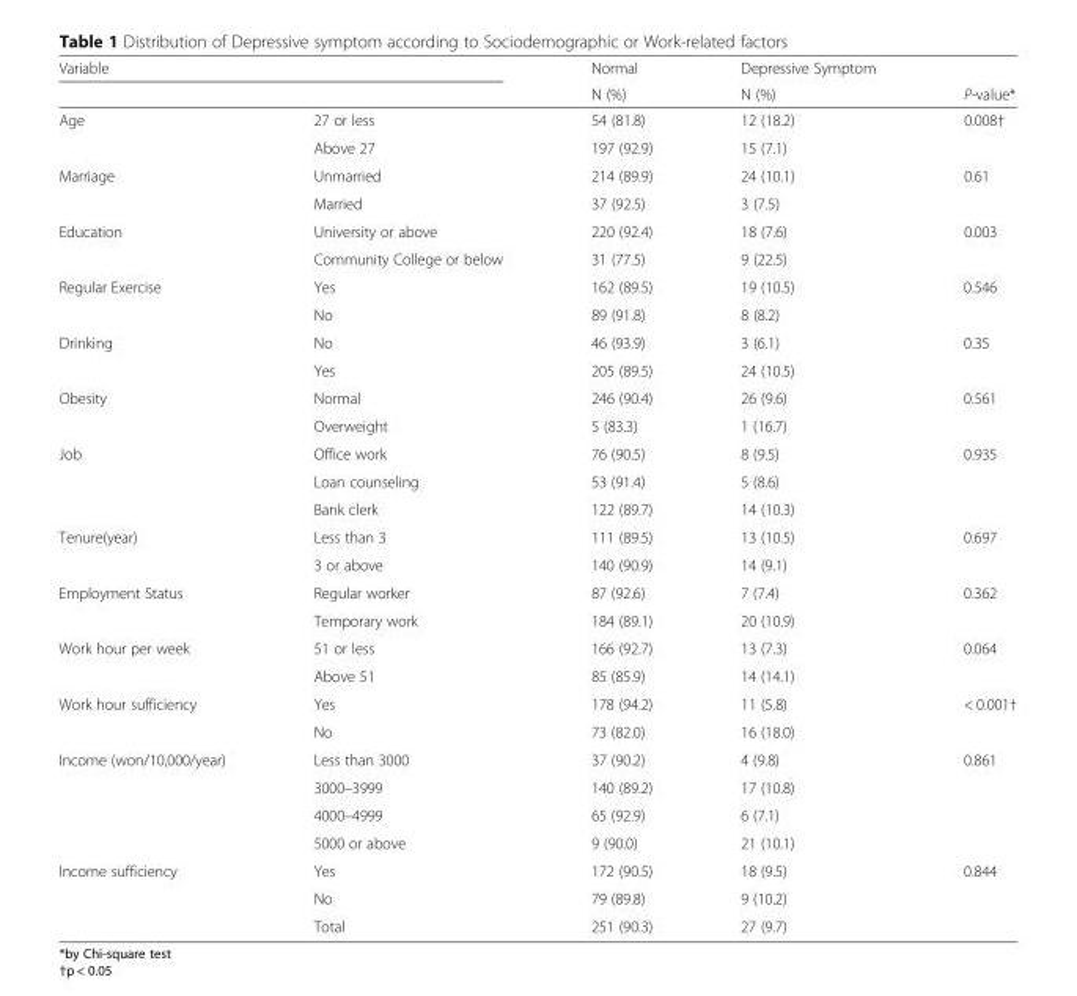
<table><thead><tr><td colspan="2">Variable</td><td rowspan="2">Normal N (%)</td><td rowspan="2">Depressive Symptom N (%)</td><td rowspan="2">P-value*</td></tr><tr><td></td><td></td></tr></thead><tbody><tr><td rowspan="2">Age</td><td>27 or less</td><td>54 (81.8)</td><td>12 (18.2)</td><td>0.008†</td></tr><tr><td>Above 27</td><td>197 (92.9)</td><td>15 (7.1)</td><td></td></tr><tr><td rowspan="2">Marriage</td><td>Unmarried</td><td>214 (89.9)</td><td>24 (10.1)</td><td>0.61</td></tr><tr><td>Married</td><td>37 (92.5)</td><td>3 (7.5)</td><td></td></tr><tr><td rowspan="2">Education</td><td>University or above</td><td>220 (92.4)</td><td>18 (7.6)</td><td>0.003</td></tr><tr><td>Community College or below</td><td>31 (77.5)</td><td>9 (22.5)</td><td></td></tr><tr><td rowspan="2">Regular Exercise</td><td>Yes</td><td>162 (89.5)</td><td>19 (10.5)</td><td>0.546</td></tr><tr><td>No</td><td>89 (91.8)</td><td>8 (8.2)</td><td></td></tr><tr><td rowspan="2">Drinking</td><td>No</td><td>46 (93.9)</td><td>3 (6.1)</td><td>0.35</td></tr><tr><td>Yes</td><td>205 (89.5)</td><td>24 (10.5)</td><td></td></tr><tr><td rowspan="2">Obesity</td><td>Normal</td><td>246 (90.4)</td><td>26 (9.6)</td><td>0.561</td></tr><tr><td>Overweight</td><td>5 (83.3)</td><td>1 (16.7)</td><td></td></tr><tr><td rowspan="3">Job</td><td>Office work</td><td>76 (90.5)</td><td>8 (9.5)</td><td>0.935</td></tr><tr><td>Loan counseling</td><td>53 (91.4)</td><td>5 (8.6)</td><td></td></tr><tr><td>Bank clerk</td><td>122 (89.7)</td><td>14 (10.3)</td><td></td></tr><tr><td rowspan="2">Tenure(year)</td><td>Less than 3</td><td>111 (89.5)</td><td>13 (10.5)</td><td>0.697</td></tr><tr><td>3 or above</td><td>140 (90.9)</td><td>14 (9.1)</td><td></td></tr><tr><td rowspan="2">Employment Status</td><td>Regular worker</td><td>87 (92.6)</td><td>7 (7.4)</td><td>0.362</td></tr><tr><td>Temporary work</td><td>184 (89.1)</td><td>20 (10.9)</td><td></td></tr><tr><td rowspan="2">Work hour per week</td><td>51 or less</td><td>166 (92.7)</td><td>13 (7.3)</td><td>0.064</td></tr><tr><td>Above 51</td><td>85 (85.9)</td><td>14 (14.1)</td><td></td></tr><tr><td rowspan="2">Work hour sufficiency</td><td>Yes</td><td>178 (94.2)</td><td>11 (5.8)</td><td>&lt; 0.001†</td></tr><tr><td>No</td><td>73 (82.0)</td><td>16 (18.0)</td><td></td></tr><tr><td rowspan="4">Income (won/10,000/year)</td><td>Less than 3000</td><td>37 (90.2)</td><td>4 (9.8)</td><td>0.861</td></tr><tr><td>3000–3999</td><td>140 (89.2)</td><td>17 (10.8)</td><td></td></tr><tr><td>4000–4999</td><td>65 (92.9)</td><td>6 (7.1)</td><td></td></tr><tr><td>5000 or above</td><td>9 (90.0)</td><td>21 (10.1)</td><td></td></tr><tr><td rowspan="3">Income sufficiency</td><td>Yes</td><td>172 (90.5)</td><td>18 (9.5)</td><td>0.844</td></tr><tr><td>No</td><td>79 (89.8)</td><td>9 (10.2)</td><td></td></tr><tr><td>Total</td><td>251 (90.3)</td><td>27 (9.7)</td><td></td></tr></tbody></table>